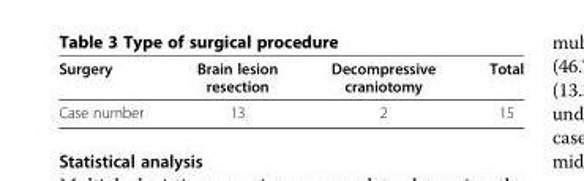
<table><thead><tr><td>Surgery</td><td>Brain lesion resection</td><td>Decompressive craniotomy</td><td>Total</td></tr></thead><tbody><tr><td>Case number</td><td>13</td><td>2</td><td>15</td></tr></tbody></table>